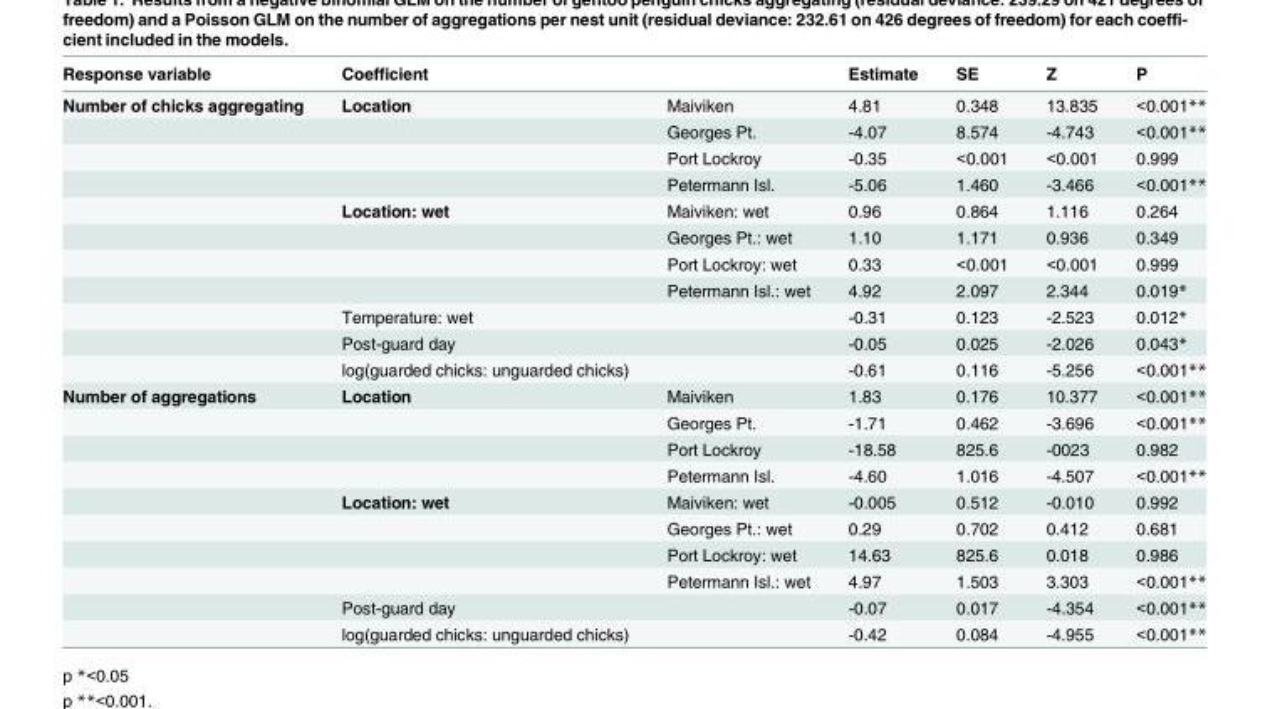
<table><thead><tr><td rowspan="2">Response variable Number of chicks aggregating</td><td colspan="2">Coefficient</td><td rowspan="2">Estimate 4.81</td><td rowspan="2">SE 0.348</td><td rowspan="2">Z 13.835</td><td rowspan="2">P &lt;0.001**</td></tr><tr><td>Location</td><td>Maiviken</td></tr></thead><tbody><tr><td></td><td></td><td>Georges Pt.</td><td>-4.07</td><td>8.574</td><td>-4.743</td><td>&lt;0.001**</td></tr><tr><td></td><td></td><td>Port Lockroy</td><td>-0.35</td><td>&lt;0.001</td><td>&lt;0.001</td><td>0.999</td></tr><tr><td></td><td></td><td>Petermann Isl.</td><td>-5.06</td><td>1.460</td><td>-3.466</td><td>&lt;0.001**</td></tr><tr><td></td><td>Location: wet</td><td>Maiviken: wet</td><td>0.96</td><td>0.864</td><td>1.116</td><td>0.264</td></tr><tr><td></td><td></td><td>Georges Pt.: wet</td><td>1.10</td><td>1.171</td><td>0.936</td><td>0.349</td></tr><tr><td></td><td></td><td>Port Lockroy: wet</td><td>0.33</td><td>&lt;0.001</td><td>&lt;0.001</td><td>0.999</td></tr><tr><td></td><td></td><td>Petermann Isl.: wet</td><td>4.92</td><td>2.097</td><td>2.344</td><td>0.019*</td></tr><tr><td></td><td>Temperature: wet</td><td></td><td>-0.31</td><td>0.123</td><td>-2.523</td><td>0.012*</td></tr><tr><td></td><td>Post-guard day</td><td></td><td>-0.05</td><td>0.025</td><td>-2.026</td><td>0.043*</td></tr><tr><td></td><td>log(guarded chicks: unguarded chicks)</td><td></td><td>-0.61</td><td>0.116</td><td>-5.256</td><td>&lt;0.001**</td></tr><tr><td rowspan="10">Number of aggregations</td><td>Location</td><td>Maiviken</td><td>1.83</td><td>0.176</td><td>10.377</td><td>&lt;0.001**</td></tr><tr><td></td><td>Georges Pt.</td><td>-1.71</td><td>0.462</td><td>-3.696</td><td>&lt;0.001**</td></tr><tr><td></td><td>Port Lockroy</td><td>-18.58</td><td>825.6</td><td>-0023</td><td>0.982</td></tr><tr><td></td><td>Petermann Isl.</td><td>-4.60</td><td>1.016</td><td>-4.507</td><td>&lt;0.001**</td></tr><tr><td>Location: wet</td><td>Maiviken: wet</td><td>-0.005</td><td>0.512</td><td>-0.010</td><td>0.992</td></tr><tr><td></td><td>Georges Pt.: wet</td><td>0.29</td><td>0.702</td><td>0.412</td><td>0.681</td></tr><tr><td></td><td>Port Lockroy: wet</td><td>14.63</td><td>825.6</td><td>0.018</td><td>0.986</td></tr><tr><td></td><td>Petermann Isl.: wet</td><td>4.97</td><td>1.503</td><td>3.303</td><td>&lt;0.001**</td></tr><tr><td>Post-guard day</td><td></td><td>-0.07</td><td>0.017</td><td>-4.354</td><td>&lt;0.001**</td></tr><tr><td>log(guarded chicks: unguarded chicks)</td><td></td><td>-0.42</td><td>0.084</td><td>-4.955</td><td>&lt;0.001**</td></tr></tbody></table>